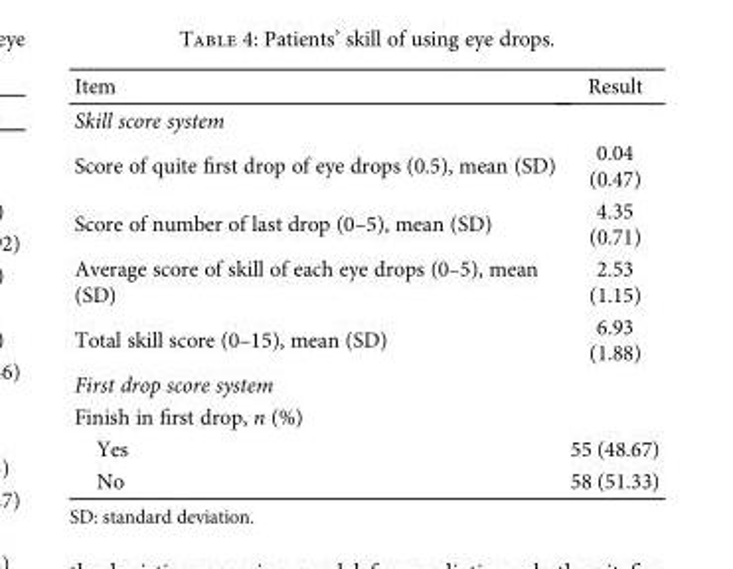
<table><thead><tr><td>Item</td><td>Result</td></tr></thead><tbody><tr><td colspan="2">Skill score system</td></tr><tr><td>Score of quite first drop of eye drops (0.5), mean (SD)</td><td>0.04 (0.47)</td></tr><tr><td>Score of number of last drop (0–5), mean (SD)</td><td>4.35 (0.71)</td></tr><tr><td>Average score of skill of each eye drops (0–5), mean (SD)</td><td>2.53 (1.15)</td></tr><tr><td>Total skill score (0–15), mean (SD)</td><td>6.93 (1.88)</td></tr><tr><td colspan="2">First drop score system</td></tr><tr><td colspan="2">Finish in first drop, n (%)</td></tr><tr><td>Yes</td><td>55 (48.67)</td></tr><tr><td>No</td><td>58 (51.33)</td></tr></tbody></table>